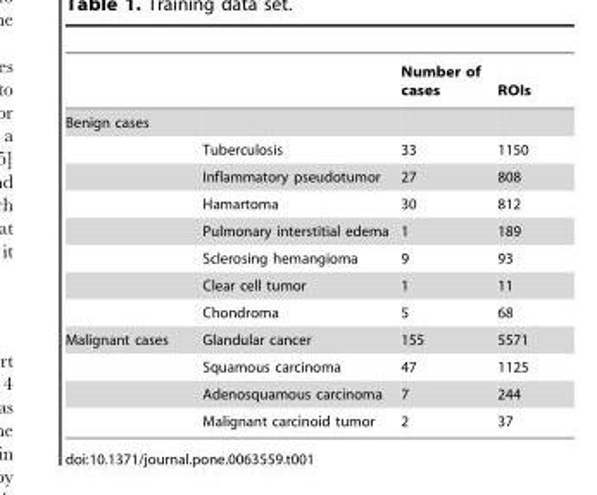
<table><thead><tr><td></td><td></td><td>Number of cases</td><td>ROIs</td></tr></thead><tbody><tr><td colspan="4">Benign cases</td></tr><tr><td></td><td>Tuberculosis</td><td>33</td><td>1150</td></tr><tr><td></td><td>Inflammatory pseudotumor</td><td>27</td><td>808</td></tr><tr><td></td><td>Hamartoma</td><td>30</td><td>812</td></tr><tr><td></td><td>Pulmonary interstitial edema</td><td>1</td><td>189</td></tr><tr><td></td><td>Sclerosing hemangioma</td><td>9</td><td>93</td></tr><tr><td></td><td>Clear cell tumor</td><td>1</td><td>11</td></tr><tr><td></td><td>Chondroma</td><td>5</td><td>68</td></tr><tr><td rowspan="4">Malignant cases</td><td>Glandular cancer</td><td>155</td><td>5571</td></tr><tr><td>Squamous carcinoma</td><td>47</td><td>1125</td></tr><tr><td>Adenosquamous carcinoma</td><td>7</td><td>244</td></tr><tr><td>Malignant carcinoid tumor</td><td>2</td><td>37</td></tr></tbody></table>